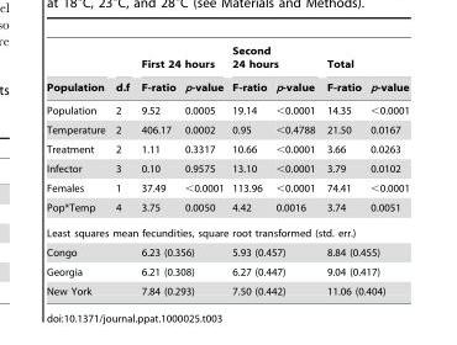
<table><thead><tr><td rowspan="2">Population</td><td rowspan="2">d.f</td><td colspan="2">First 24 hours</td><td colspan="2">Second 24 hours</td><td colspan="2">Total</td></tr><tr><td>F-ratio</td><td>p-value</td><td>F-ratio</td><td>p-value</td><td>F-ratio</td><td>p-value</td></tr></thead><tbody><tr><td>Population</td><td>2</td><td>9.52</td><td>0.0005</td><td>19.14</td><td>&lt;0.0001</td><td>14.35</td><td>&lt;0.0001</td></tr><tr><td>Temperature</td><td>2</td><td>406.17</td><td>0.0002</td><td>0&gt;95</td><td>&lt;0.4788</td><td>21.50</td><td>0.0167</td></tr><tr><td>Treatment</td><td>2</td><td>1.11</td><td>0.3317</td><td>10.66</td><td>&lt;0.0001</td><td>3.66</td><td>0.0263</td></tr><tr><td>Infector</td><td>3</td><td>0.10</td><td>0.9575</td><td>13.10</td><td>&lt;0.0001</td><td>3.79</td><td>0.0102</td></tr><tr><td>Females</td><td>1</td><td>37.49</td><td>&lt;0.0001</td><td>113.96</td><td>&lt;0.0001</td><td>74.41</td><td>&lt;0.0001</td></tr><tr><td>Pop*Temp</td><td>4</td><td>3.75</td><td>0.0050</td><td>4.42</td><td>0.0016</td><td>3.74</td><td>0.0051</td></tr><tr><td colspan="8">Least squares mean fecundities, square root transformed (std. err.)</td></tr><tr><td>Congo</td><td></td><td colspan="2">6.23 (0.356)</td><td colspan="2">5.93 (0.457)</td><td colspan="2">8.84 (0.455)</td></tr><tr><td>Georgia</td><td></td><td colspan="2">6.21 (0.308)</td><td colspan="2">6.27 (0.447)</td><td colspan="2">9.04 (0.417)</td></tr><tr><td>New York</td><td></td><td colspan="2">7.84 (0.293)</td><td colspan="2">7.50 (0.442)</td><td colspan="2">11.06 (0.404)</td></tr></tbody></table>